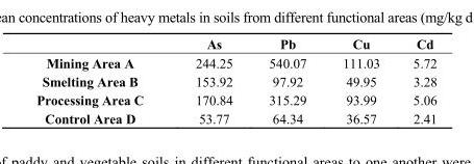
<table><thead><tr><td></td><td>As</td><td>Pb</td><td>Cu</td><td>Cd</td></tr></thead><tbody><tr><td>Mining Area A</td><td>244.25</td><td>540.07</td><td>111.03</td><td>5.72</td></tr><tr><td>Smelting Area B</td><td>153.92</td><td>97.92</td><td>49.95</td><td>3.28</td></tr><tr><td>Processing Area C</td><td>170.84</td><td>315.29</td><td>93.99</td><td>5.06</td></tr><tr><td>Control Area D</td><td>53.77</td><td>64.34</td><td>36.57</td><td>2.41</td></tr></tbody></table>